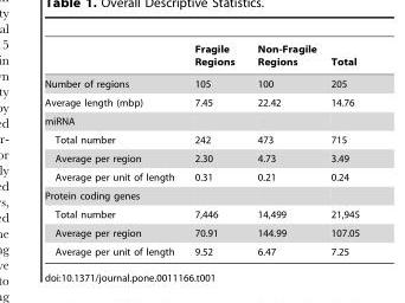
<table><thead><tr><td></td><td>Fragile Regions</td><td>Non-Fragile Regions</td><td>Total</td></tr></thead><tbody><tr><td>Number of regions</td><td>105</td><td>100</td><td>205</td></tr><tr><td>Average length (mbp)</td><td>7.45</td><td>22.42</td><td>14.76</td></tr><tr><td colspan="4">miRNA</td></tr><tr><td>Total number</td><td>242</td><td>473</td><td>715</td></tr><tr><td>Average per region</td><td>2.30</td><td>4.73</td><td>3.49</td></tr><tr><td>Average per unit of length</td><td>0.31</td><td>0.21</td><td>0.24</td></tr><tr><td colspan="4">Protein coding genes</td></tr><tr><td>Total number</td><td>7,446</td><td>14,499</td><td>21,945</td></tr><tr><td>Average per region</td><td>70.91</td><td>144.99</td><td>107.05</td></tr><tr><td>Average per unit of length</td><td>9.52</td><td>6.47</td><td>7.25</td></tr></tbody></table>